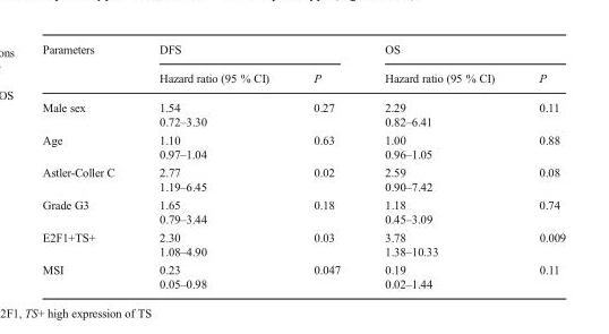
<table><thead><tr><td rowspan="2">Parameters</td><td colspan="2">DFS</td><td colspan="2">OS</td></tr><tr><td>Hazard ratio (95 % CI)</td><td>P</td><td>Hazard ratio (95 % CI)</td><td>P</td></tr></thead><tbody><tr><td rowspan="2">Male sex</td><td>1.54</td><td rowspan="2">0.27</td><td>2.29</td><td rowspan="2">0.11</td></tr><tr><td>0.72–3.30</td><td>0.82–6.41</td></tr><tr><td rowspan="2">Age</td><td>1.10</td><td rowspan="2">0.63</td><td>1.00</td><td rowspan="2">0.88</td></tr><tr><td>0.97–1.04</td><td>0.96–1.05</td></tr><tr><td rowspan="2">Astler-Coller C</td><td>2.77</td><td rowspan="2">0.02</td><td>2.59</td><td rowspan="2">0.08</td></tr><tr><td>1.19–6.45</td><td>0.90–7.42</td></tr><tr><td rowspan="2">Grade G3</td><td>1.65</td><td rowspan="2">0.18</td><td>1.18</td><td rowspan="2">0.74</td></tr><tr><td>0.79–3.44</td><td>0.45–3.09</td></tr><tr><td rowspan="2">E2F1+TS+</td><td>2.30</td><td rowspan="2">0.03</td><td>3.78</td><td rowspan="2">0.009</td></tr><tr><td>1.08–4.90</td><td>1.38–10.33</td></tr><tr><td rowspan="2">MSI</td><td>0.23</td><td rowspan="2">0.047</td><td>0.19</td><td rowspan="2">0.11</td></tr><tr><td>0.05–0.98</td><td>0.02–1.44</td></tr></tbody></table>